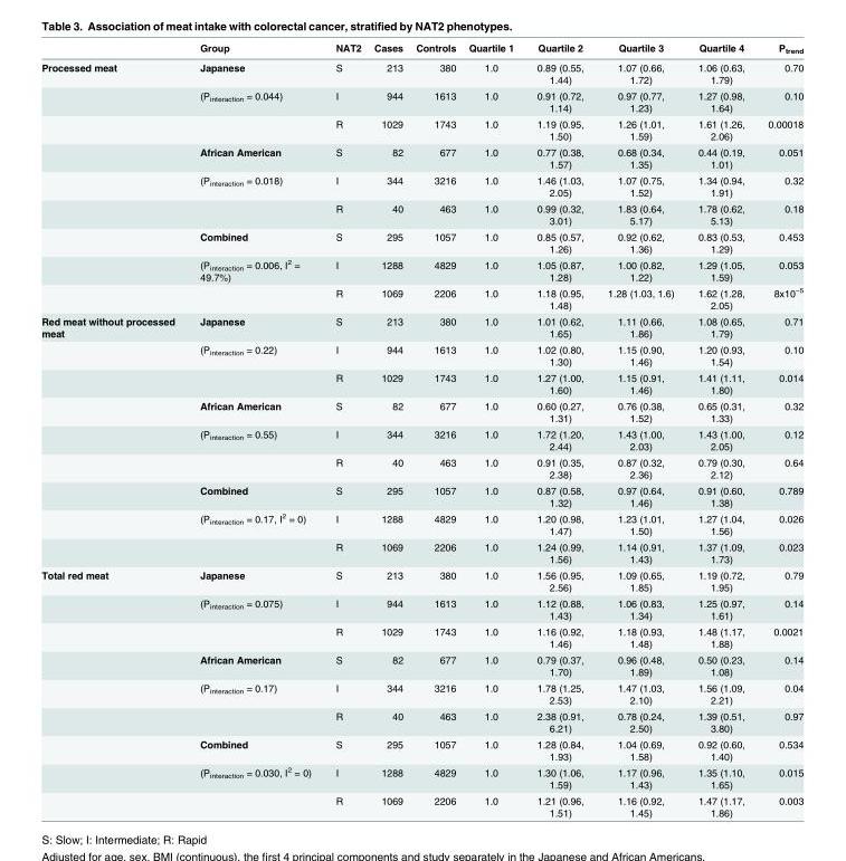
<table><thead><tr><td></td><td>Group</td><td>NAT2</td><td>Cases</td><td>Controls</td><td>Quartile 1</td><td>Quartile 2</td><td>Quartile 3</td><td>Quartile 4</td><td>P<sub>trend</sub></td></tr></thead><tbody><tr><td rowspan="9">Processed meat</td><td>Japanese</td><td>S</td><td>213</td><td>380</td><td>1.0</td><td>0.89 (0.55, 1.44)</td><td>1.07 (0.66, 1.72)</td><td>1.06 (0.63, 1.79)</td><td>0.70</td></tr><tr><td>(P<sub>interaction</sub> = 0.044)</td><td>I</td><td>944</td><td>1613</td><td>1.0</td><td>0.91 (0.72, 1.14)</td><td>0.97 (0.77, 1.23)</td><td>1.27 (0.98, 1.64)</td><td>0.10</td></tr><tr><td></td><td>R</td><td>1029</td><td>1743</td><td>1.0</td><td>1.19 (0.95, 1.50)</td><td>1.26 (1.01, 1.59)</td><td>1.61 (1.26, 2.06)</td><td>0.00018</td></tr><tr><td>African American</td><td>S</td><td>82</td><td>677</td><td>1.0</td><td>0.77 (0.38, 1.57)</td><td>0.68 (0.34, 1.35)</td><td>0.44 (0.19, 1.01)</td><td>0.051</td></tr><tr><td>(P<sub>interaction</sub> = 0.018)</td><td>I</td><td>344</td><td>3216</td><td>1.0</td><td>1.46 (1.03, 2.05)</td><td>1.07 (0.75, 1.52)</td><td>1.34 (0.94, 1.91)</td><td>0.32</td></tr><tr><td></td><td>R</td><td>40</td><td>463</td><td>1.0</td><td>0.99 (0.32, 3.01)</td><td>1.83 (0.64, 5.17)</td><td>1.78 (0.62, 5.13)</td><td>0.18</td></tr><tr><td>Combined</td><td>S</td><td>295</td><td>1057</td><td>1.0</td><td>0.85 (0.57, 1.26)</td><td>0.92 (0.62, 1.36)</td><td>0.83 (0.53, 1.29)</td><td>0.453</td></tr><tr><td>(P<sub>interaction</sub> = 0.006, I<sup>2</sup> = 49.7%)</td><td>I</td><td>1288</td><td>4829</td><td>1.0</td><td>1.05 (0.87, 1.28)</td><td>1.00 (0.82, 1.22)</td><td>1.29 (1.05, 1.59)</td><td>0.053</td></tr><tr><td></td><td>R</td><td>1069</td><td>2206</td><td>1.0</td><td>1.18 (0.95, 1.48)</td><td>1.28 (1.03, 1.6)</td><td>1.62 (1.28, 2.05)</td><td>8x10<sup>−5</sup></td></tr><tr><td rowspan="9">Red meat without processed meat</td><td>Japanese</td><td>S</td><td>213</td><td>380</td><td>1.0</td><td>1.01 (0.62, 1.65)</td><td>1.11 (0.66, 1.86)</td><td>1.08 (0.65, 1.79)</td><td>0.71</td></tr><tr><td>(P<sub>interaction</sub> = 0.22)</td><td>I</td><td>944</td><td>1613</td><td>1.0</td><td>1.02 (0.80, 1.30)</td><td>1.15 (0.90, 1.46)</td><td>1.20 (0.93, 1.54)</td><td>0.10</td></tr><tr><td></td><td>R</td><td>1029</td><td>1743</td><td>1.0</td><td>1.27 (1.00, 1.60)</td><td>1.15 (0.91, 1.46)</td><td>1.41 (1.11, 1.80)</td><td>0.014</td></tr><tr><td>African American</td><td>S</td><td>82</td><td>677</td><td>1.0</td><td>0.60 (0.27, 1.31)</td><td>0.76 (0.38, 1.52)</td><td>0.65 (0.31, 1.33)</td><td>0.32</td></tr><tr><td>(P<sub>interaction</sub> = 0.55)</td><td>I</td><td>344</td><td>3216</td><td>1.0</td><td>1.72 (1.20, 2.44)</td><td>1.43 (1.00, 2.03)</td><td>1.43 (1.00, 2.05)</td><td>0.12</td></tr><tr><td></td><td>R</td><td>40</td><td>463</td><td>1.0</td><td>0.91 (0.35, 2.38)</td><td>0.87 (0.32, 2.36)</td><td>0.79 (0.30, 2.12)</td><td>0.64</td></tr><tr><td>Combined</td><td>S</td><td>295</td><td>1057</td><td>1.0</td><td>0.87 (0.58, 1.32)</td><td>0.97 (0.64, 1.46)</td><td>0.91 (0.60, 1.38)</td><td>0.789</td></tr><tr><td>(P<sub>interaction</sub> = 0.17, I<sup>2</sup> = 0)</td><td>I</td><td>1288</td><td>4829</td><td>1.0</td><td>1.20 (0.98, 1.47)</td><td>1.23 (1.01, 1.50)</td><td>1.27 (1.04, 1.56)</td><td>0.026</td></tr><tr><td></td><td>R</td><td>1069</td><td>2206</td><td>1.0</td><td>1.24 (0.99, 1.56)</td><td>1.14 (0.91, 1.43)</td><td>1.37 (1.09, 1.73)</td><td>0.023</td></tr><tr><td rowspan="9">Total red meat</td><td>Japanese</td><td>S</td><td>213</td><td>380</td><td>1.0</td><td>1.56 (0.95, 2.56)</td><td>1.09 (0.65, 1.85)</td><td>1.19 (0.72, 1.95)</td><td>0.79</td></tr><tr><td>(P<sub>interaction</sub> = 0.075)</td><td>I</td><td>944</td><td>1613</td><td>1.0</td><td>1.12 (0.88, 1.43)</td><td>1.06 (0.83, 1.34)</td><td>1.25 (0.97, 1.61)</td><td>0.14</td></tr><tr><td></td><td>R</td><td>1029</td><td>1743</td><td>1.0</td><td>1.16 (0.92, 1.46)</td><td>1.18 (0.93, 1.48)</td><td>1.48 (1.17, 1.88)</td><td>0.0021</td></tr><tr><td>African American</td><td>S</td><td>82</td><td>677</td><td>1.0</td><td>0.79 (0.37, 1.70)</td><td>0.96 (0.48, 1.89)</td><td>0.50 (0.23, 1.08)</td><td>0.14</td></tr><tr><td>(P<sub>interaction</sub> = 0.17)</td><td>I</td><td>344</td><td>3216</td><td>1.0</td><td>1.78 (1.25, 2.53)</td><td>1.47 (1.03, 2.10)</td><td>1.56 (1.09, 2.21)</td><td>0.04</td></tr><tr><td></td><td>R</td><td>40</td><td>463</td><td>1.0</td><td>2.38 (0.91, 6.21)</td><td>0.78 (0.24, 2.50)</td><td>1.39 (0.51, 3.80)</td><td>0.97</td></tr><tr><td>Combined</td><td>S</td><td>295</td><td>1057</td><td>1.0</td><td>1.28 (0.84, 1.93)</td><td>1.04 (0.69, 1.58)</td><td>0.92 (0.60, 1.40)</td><td>0.534</td></tr><tr><td>(P<sub>interaction</sub> = 0.030, I<sup>2</sup> = 0)</td><td>I</td><td>1288</td><td>4829</td><td>1.0</td><td>1.30 (1.06, 1.59)</td><td>1.17 (0.96, 1.43)</td><td>1.35 (1.10, 1.65)</td><td>0.015</td></tr><tr><td></td><td>R</td><td>1069</td><td>2206</td><td>1.0</td><td>1.21 (0.96, 1.51)</td><td>1.16 (0.92, 1.45)</td><td>1.47 (1.17, 1.86)</td><td>0.003</td></tr></tbody></table>